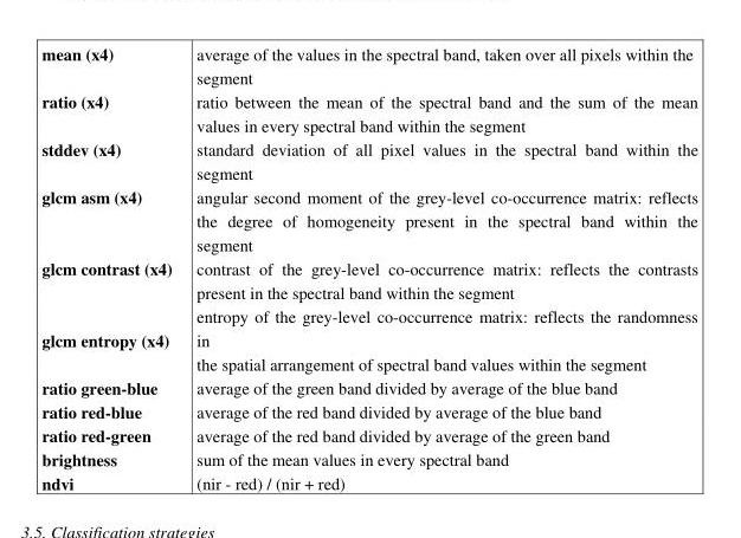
<table><tbody><tr><td>mean (x4)</td><td>average of the values in the spectral band, taken over all pixels within the segment</td></tr><tr><td>ratio (x4)</td><td>ratio between the mean of the spectral band and the sum of the mean values in every spectral band within the segment</td></tr><tr><td>stddev (x4)</td><td>standard deviation of all pixel values in the spectral band within the segment</td></tr><tr><td>glcm asm (x4)</td><td>angular second moment of the grey-level co-occurrence matrix: reflects the degree of homogeneity present in the spectral band within the segment</td></tr><tr><td>glcm contrast (x4)</td><td>contrast of the grey-level co-occurrence matrix: reflects the contrasts present in the spectral band within the segment</td></tr><tr><td>glcm entropy (x4)</td><td>entropy of the grey-level co-occurrence matrix: reflects the randomness in the spatial arrangement of spectral band values within the segment</td></tr><tr><td>ratio green-blue</td><td>average of the green band divided by average of the blue band</td></tr><tr><td>ratio red-blue</td><td>average of the red band divided by average of the blue band</td></tr><tr><td>ratio red-green</td><td>average of the red band divided by average of the green band</td></tr><tr><td>brightness</td><td>sum of the mean values in every spectral band</td></tr><tr><td>ndvi</td><td>(nir - red) / (nir + red)</td></tr></tbody></table>